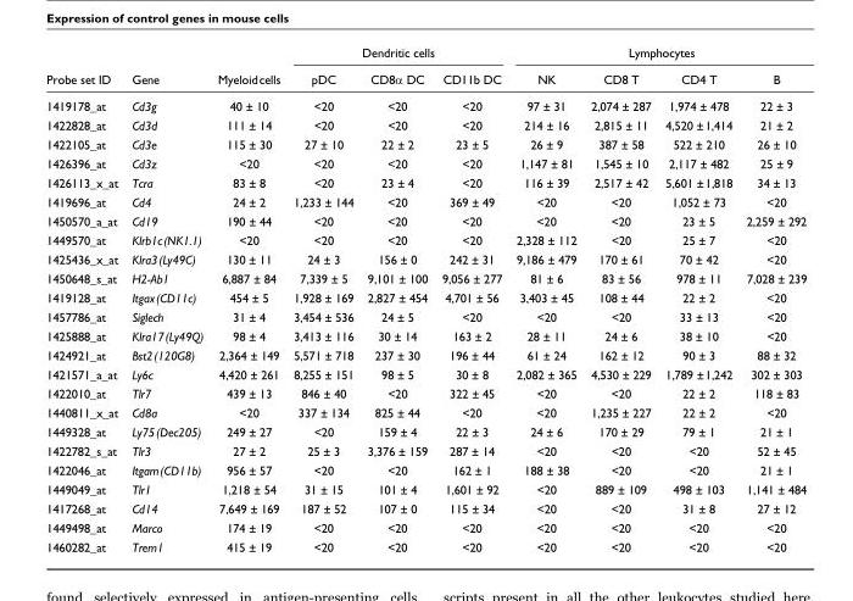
<table><thead><tr><td rowspan="2">Probe set ID</td><td rowspan="2">Gene</td><td rowspan="2">Myeloid cells</td><td colspan="3">Dendritic cells</td><td colspan="4">Lymphocytes</td></tr><tr><td>pDC</td><td>CD8α DC</td><td>CD11b DC</td><td>NK</td><td>CD8 T</td><td>CD4 T</td><td>B</td></tr></thead><tbody><tr><td>1419178_at</td><td>Cd3g</td><td>40 ± 10</td><td>&lt;20</td><td>&lt;20</td><td>&lt;20</td><td>97 ± 31</td><td>2,074 ± 287</td><td>1,974 ± 478</td><td>22 ± 3</td></tr><tr><td>1422828_at</td><td>Cd3d</td><td>111 ± 14</td><td>&lt;20</td><td>&lt;20</td><td>&lt;20</td><td>214 ± 16</td><td>2,815 ± 11</td><td>4,520 ± 1,414</td><td>21 ± 2</td></tr><tr><td>1422105_at</td><td>Cd3e</td><td>115 ± 30</td><td>27 ± 10</td><td>22 ± 2</td><td>23 ± 5</td><td>26 ± 9</td><td>387 ± 58</td><td>522 ± 210</td><td>26 ± 10</td></tr><tr><td>1426396_at</td><td>Cd3z</td><td>&lt;20</td><td>&lt;20</td><td>&lt;20</td><td>&lt;20</td><td>1,147 ± 81</td><td>1,545 ± 10</td><td>2,117 ± 482</td><td>25 ± 9</td></tr><tr><td>1426113_x_at</td><td>Tcra</td><td>83 ± 8</td><td>&lt;20</td><td>23 ± 4</td><td>&lt;20</td><td>116 ± 39</td><td>2,517 ± 42</td><td>5,601 ± 1,818</td><td>34 ± 13</td></tr><tr><td>1419696_at</td><td>Cd4</td><td>24 ± 2</td><td>1,233 ± 144</td><td>&lt;20</td><td>369 ± 49</td><td>&lt;20</td><td>&lt;20</td><td>1,052 ± 73</td><td>&lt;20</td></tr><tr><td>1450570_a_at</td><td>Cd19</td><td>190 ± 44</td><td>&lt;20</td><td>&lt;20</td><td>&lt;20</td><td>&lt;20</td><td>&lt;20</td><td>23 ± 5</td><td>2,259 ± 292</td></tr><tr><td>1449570_at</td><td>Klrb1c (NK1.1)</td><td>&lt;20</td><td>&lt;20</td><td>&lt;20</td><td>&lt;20</td><td>2,328 ± 112</td><td>&lt;20</td><td>25 ± 7</td><td>&lt;20</td></tr><tr><td>1425436_x_at</td><td>Klra3 (Ly49C)</td><td>130 ± 11</td><td>24 ± 3</td><td>156 ± 0</td><td>242 ± 31</td><td>9,186 ± 479</td><td>170 ± 61</td><td>70 ± 42</td><td>&lt;20</td></tr><tr><td>1450648_s_at</td><td>H2-Ab1</td><td>6,887 ± 84</td><td>7,339 ± 5</td><td>9,101 ± 100</td><td>9,056 ± 277</td><td>81 ± 6</td><td>83 ± 56</td><td>978 ± 11</td><td>7,028 ± 239</td></tr><tr><td>1419128_at</td><td>Itgax (CD11c)</td><td>454 ± 5</td><td>1,928 ± 169</td><td>2,827 ± 454</td><td>4,701 ± 56</td><td>3,403 ± 45</td><td>108 ± 44</td><td>22 ± 2</td><td>&lt;20</td></tr><tr><td>1457786_at</td><td>Siglech</td><td>31 ± 4</td><td>3,454 ± 536</td><td>24 ± 5</td><td>&lt;20</td><td>&lt;20</td><td>&lt;20</td><td>33 ± 13</td><td>&lt;20</td></tr><tr><td>1425888_at</td><td>Klra17 (Ly49Q)</td><td>98 ± 4</td><td>3,413 ± 116</td><td>30 ± 14</td><td>163 ± 2</td><td>28 ± 11</td><td>24 ± 6</td><td>38 ± 10</td><td>&lt;20</td></tr><tr><td>1424921_at</td><td>Bst2 (120G8)</td><td>2,364 ± 149</td><td>5,571 ± 718</td><td>237 ± 30</td><td>196 ± 44</td><td>61 ± 24</td><td>162 ± 12</td><td>90 ± 3</td><td>88 ± 32</td></tr><tr><td>1421571_a_at</td><td>Ly6c</td><td>4,420 ± 261</td><td>8,255 ± 151</td><td>98 ± 5</td><td>30 ± 8</td><td>2,082 ± 365</td><td>4,530 ± 229</td><td>1,789 ± 1,242</td><td>302 ± 303</td></tr><tr><td>1422010_at</td><td>Tlr7</td><td>439 ± 13</td><td>846 ± 40</td><td>&lt;20</td><td>322 ± 45</td><td>&lt;20</td><td>&lt;20</td><td>22 ± 2</td><td>118 ± 83</td></tr><tr><td>1440811_x_at</td><td>Cd8a</td><td>&lt;20</td><td>337 ± 134</td><td>825 ± 44</td><td>&lt;20</td><td>&lt;20</td><td>1,235 ± 227</td><td>22 ± 2</td><td>&lt;20</td></tr><tr><td>1449328_at</td><td>Ly75 (Dec205)</td><td>249 ± 27</td><td>&lt;20</td><td>159 ± 4</td><td>22 ± 3</td><td>24 ± 6</td><td>170 ± 29</td><td>79 ± 1</td><td>21 ± 1</td></tr><tr><td>1422782_s_at</td><td>Tlr3</td><td>27 ± 2</td><td>25 ± 3</td><td>3,376 ± 159</td><td>287 ± 14</td><td>&lt;20</td><td>&lt;20</td><td>&lt;20</td><td>52 ± 45</td></tr><tr><td>1422046_at</td><td>Itgam (CD11b)</td><td>956 ± 57</td><td>&lt;20</td><td>&lt;20</td><td>162 ± 1</td><td>188 ± 38</td><td>&lt;20</td><td>&lt;20</td><td>21 ± 1</td></tr><tr><td>1449049_at</td><td>Tlr1</td><td>1,218 ± 54</td><td>31 ± 15</td><td>101 ± 4</td><td>1,601 ± 92</td><td>&lt;20</td><td>889 ± 109</td><td>498 ± 103</td><td>1,141 ± 484</td></tr><tr><td>1417268_at</td><td>Cd14</td><td>7,649 ± 169</td><td>187 ± 52</td><td>107 ± 0</td><td>115 ± 34</td><td>&lt;20</td><td>&lt;20</td><td>31 ± 8</td><td>27 ± 12</td></tr><tr><td>1449498_at</td><td>Marco</td><td>174 ± 19</td><td>&lt;20</td><td>&lt;20</td><td>&lt;20</td><td>&lt;20</td><td>&lt;20</td><td>&lt;20</td><td>&lt;20</td></tr><tr><td>1460282_at</td><td>Trem1</td><td>415 ± 19</td><td>&lt;20</td><td>&lt;20</td><td>&lt;20</td><td>&lt;20</td><td>&lt;20</td><td>&lt;20</td><td>&lt;20</td></tr></tbody></table>